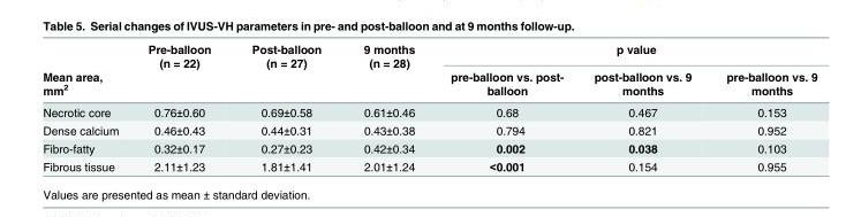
<table><thead><tr><td rowspan="2">Mean area, mm<sup>2</sup></td><td rowspan="2">Pre-balloon (n = 22)</td><td rowspan="2">Post-balloon (n = 27)</td><td rowspan="2">9 months (n = 28)</td><td colspan="3">p value</td></tr><tr><td>pre-balloon vs. post- balloon</td><td>post-balloon vs. 9 months</td><td>pre-balloon vs. 9 months</td></tr></thead><tbody><tr><td>Necrotic core</td><td>0.76±0.60</td><td>0.69±0.58</td><td>0.61±0.46</td><td>0.68</td><td>0.467</td><td>0.153</td></tr><tr><td>Dense calcium</td><td>0.46±0.43</td><td>0.44±0.31</td><td>0.43±0.38</td><td>0.794</td><td>0.821</td><td>0.952</td></tr><tr><td>Fibro-fatty</td><td>0.32±0.17</td><td>0.27±0.23</td><td>0.42±0.34</td><td>0.002</td><td>0.038</td><td>0.103</td></tr><tr><td>Fibrous tissue</td><td>2.11±1.23</td><td>1.81±1.41</td><td>2.01±1.24</td><td>&lt;0.001</td><td>0.154</td><td>0.955</td></tr></tbody></table>